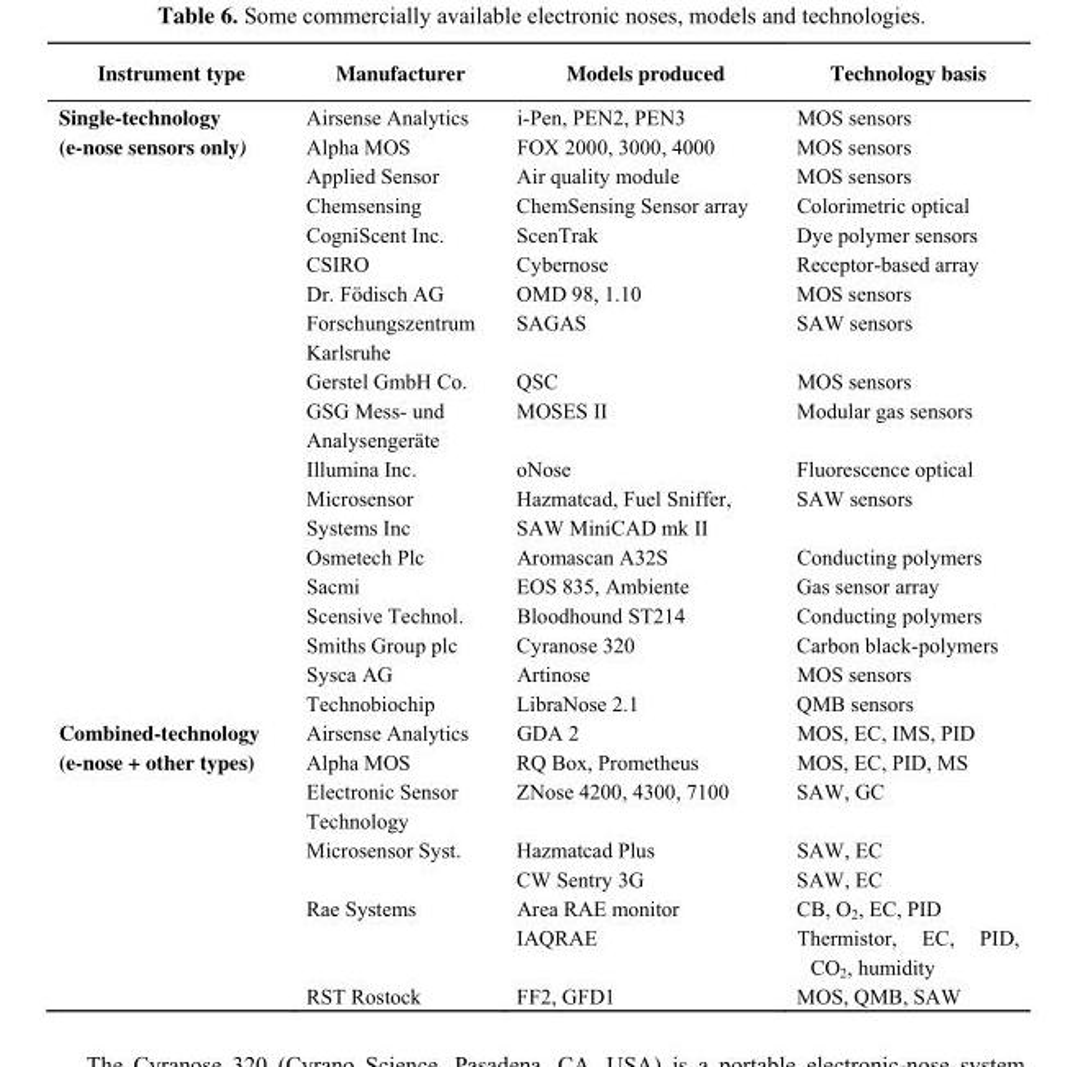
<table><thead><tr><td>Instrument type</td><td>Manufacturer</td><td>Models produced</td><td>Technology basis</td></tr></thead><tbody><tr><td rowspan="18">Single-technology (e-nose sensors only)</td><td>Airsense Analytics</td><td>i-Pen, PEN2, PEN3</td><td>MOS sensors</td></tr><tr><td>Alpha MOS</td><td>FOX 2000, 3000, 4000</td><td>MOS sensors</td></tr><tr><td>Applied Sensor</td><td>Air quality module</td><td>MOS sensors</td></tr><tr><td>Chemsensing</td><td>ChemSensing Sensor array</td><td>Colorimetric optical</td></tr><tr><td>CogniScent Inc.</td><td>ScenTrak</td><td>Dye polymer sensors</td></tr><tr><td>CSIRO</td><td>Cybernose</td><td>Receptor-based array</td></tr><tr><td>Dr. Födisch AG</td><td>OMD 98, 1.10</td><td>MOS sensors</td></tr><tr><td>Forschungszentrum Karlsruhe</td><td>SAGAS</td><td>SAW sensors</td></tr><tr><td>Gerstel GmbH Co.</td><td>QSC</td><td>MOS sensors</td></tr><tr><td>GSG Mess- und Analysengeräte</td><td>MOSES II</td><td>Modular gas sensors</td></tr><tr><td>Illumina Inc.</td><td>oNose</td><td>Fluorescence optical</td></tr><tr><td>Microsensor Systems Inc</td><td>Hazmatcad, Fuel Sniffer, SAW MiniCAD mk II</td><td>SAW sensors</td></tr><tr><td>Osmetech Plc</td><td>Aromascan A32S</td><td>Conducting polymers</td></tr><tr><td>Sacmi</td><td>EOS 835, Ambiente</td><td>Gas sensor array</td></tr><tr><td>Scensive Technol.</td><td>Bloodhound ST214</td><td>Conducting polymers</td></tr><tr><td>Smiths Group plc</td><td>Cyranose 320</td><td>Carbon black-polymers</td></tr><tr><td>Sysca AG</td><td>Artinose</td><td>MOS sensors</td></tr><tr><td>Technobiochip</td><td>LibraNose 2.1</td><td>QMB sensors</td></tr><tr><td rowspan="8">Combined-technology (e-nose + other types)</td><td>Airsense Analytics</td><td>GDA 2</td><td>MOS, EC, IMS, PID</td></tr><tr><td>Alpha MOS</td><td>RQ Box, Prometheus</td><td>MOS, EC, PID, MS</td></tr><tr><td>Electronic Sensor Technology</td><td>ZNose 4200, 4300, 7100</td><td>SAW, GC</td></tr><tr><td rowspan="2">Microsensor Syst.</td><td>Hazmatcad Plus</td><td>SAW, EC</td></tr><tr><td>CW Sentry 3G</td><td>SAW, EC</td></tr><tr><td rowspan="2">Rae Systems</td><td>Area RAE monitor</td><td>CB, O<sub>2</sub>, EC, PID</td></tr><tr><td>IAQRAE</td><td>Thermistor, EC, PID, CO<sub>2</sub>, humidity</td></tr><tr><td>RST Rostock</td><td>FF2, GFD1</td><td>MOS, QMB, SAW</td></tr></tbody></table>